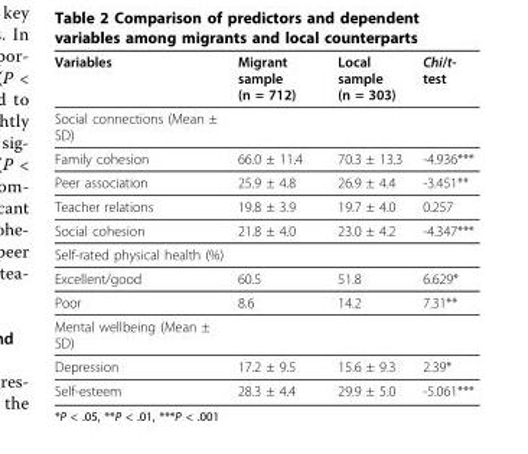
<table><thead><tr><td>Variables</td><td>Migrant sample (n = 712)</td><td>Local sample (n = 303)</td><td>Chi/t- test</td></tr></thead><tbody><tr><td colspan="4">Social connections (Mean ± SD)</td></tr><tr><td>Family cohesion</td><td>66.0 ± 11.4</td><td>70.3 ± 13.3</td><td>-4.936***</td></tr><tr><td>Peer association</td><td>25.9 ± 4.8</td><td>26.9 ± 4.4</td><td>-3.451**</td></tr><tr><td>Teacher relations</td><td>19.8 ± 3.9</td><td>19.7 ± 4.0</td><td>0.257</td></tr><tr><td>Social cohesion</td><td>21.8 ± 4.0</td><td>23.0 ± 4.2</td><td>-4.347***</td></tr><tr><td colspan="4">Self-rated physical health (%)</td></tr><tr><td>Excellent/good</td><td>60.5</td><td>51.8</td><td>6.629*</td></tr><tr><td>Poor</td><td>8.6</td><td>14.2</td><td>7.31**</td></tr><tr><td colspan="4">Mental wellbeing (Mean ± SD)</td></tr><tr><td>Depression</td><td>17.2 ± 9.5</td><td>15.6 ± 9.3</td><td>2.39*</td></tr><tr><td>Self-esteem</td><td>28.3 ± 4.4</td><td>29.9 ± 5.0</td><td>-5.061***</td></tr></tbody></table>